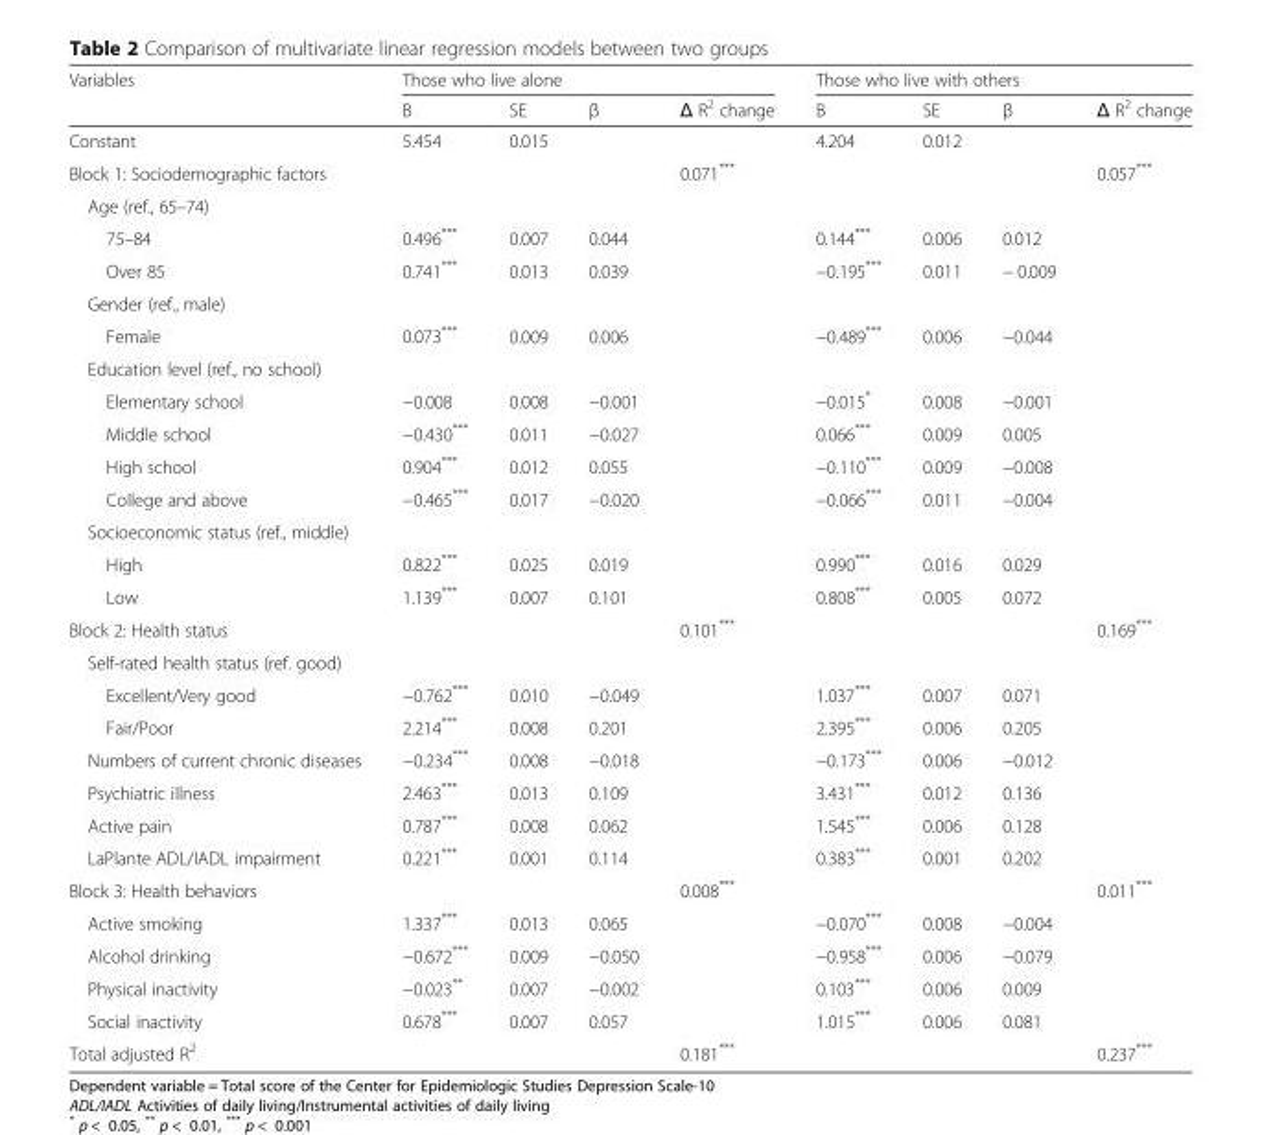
<table><thead><tr><td rowspan="2">Variables</td><td colspan="4">Those who live alone</td><td colspan="4">Those who live with others</td></tr><tr><td>B</td><td>SE</td><td>β</td><td>Δ R<sup>2</sup> change</td><td>B</td><td>SE</td><td>β</td><td>Δ R<sup>2</sup> change</td></tr></thead><tbody><tr><td>Constant</td><td>5.454</td><td>0.015</td><td></td><td></td><td>4.204</td><td>0.012</td><td></td><td></td></tr><tr><td>Block 1: Sociodemographic factors</td><td></td><td></td><td></td><td>0.071***</td><td></td><td></td><td></td><td>0.057***</td></tr><tr><td colspan="9">Age (ref., 65–74)</td></tr><tr><td>75–84</td><td>0.496***</td><td>0.007</td><td>0.044</td><td></td><td>0.144***</td><td>0.006</td><td>0.012</td><td></td></tr><tr><td>Over 85</td><td>0.741***</td><td>0.013</td><td>0.039</td><td></td><td>−0.195***</td><td>0.011</td><td>− 0.009</td><td></td></tr><tr><td colspan="9">Gender (ref., male)</td></tr><tr><td>Female</td><td>0.073***</td><td>0.009</td><td>0.006</td><td></td><td>−0.489***</td><td>0.006</td><td>−0.044</td><td></td></tr><tr><td colspan="9">Education level (ref., no school)</td></tr><tr><td>Elementary school</td><td>−0.008</td><td>0.008</td><td>−0.001</td><td></td><td>−0.015*</td><td>0.008</td><td>−0.001</td><td></td></tr><tr><td>Middle school</td><td>−0.430***</td><td>0.011</td><td>−0.027</td><td></td><td>0.066***</td><td>0.009</td><td>0.005</td><td></td></tr><tr><td>High school</td><td>0.904***</td><td>0.012</td><td>0.055</td><td></td><td>−0.110***</td><td>0.009</td><td>−0.008</td><td></td></tr><tr><td>College and above</td><td>−0.465***</td><td>0.017</td><td>−0.020</td><td></td><td>−0.066***</td><td>0.011</td><td>−0.004</td><td></td></tr><tr><td colspan="9">Socioeconomic status (ref., middle)</td></tr><tr><td>High</td><td>0.822***</td><td>0.025</td><td>0.019</td><td></td><td>0.990***</td><td>0.016</td><td>0.029</td><td></td></tr><tr><td>Low</td><td>1.139***</td><td>0.007</td><td>0.101</td><td></td><td>0.808***</td><td>0.005</td><td>0.072</td><td></td></tr><tr><td>Block 2: Health status</td><td></td><td></td><td></td><td>0.101***</td><td></td><td></td><td></td><td>0.169***</td></tr><tr><td colspan="9">Self-rated health status (ref. good)</td></tr><tr><td>Excellent/Very good</td><td>−0.762***</td><td>0.010</td><td>−0.049</td><td></td><td>1.037***</td><td>0.007</td><td>0.071</td><td></td></tr><tr><td>Fair/Poor</td><td>2.214***</td><td>0.008</td><td>0.201</td><td></td><td>2.395***</td><td>0.006</td><td>0.205</td><td></td></tr><tr><td>Numbers of current chronic diseases</td><td>−0.234***</td><td>0.008</td><td>−0.018</td><td></td><td>−0.173***</td><td>0.006</td><td>−0.012</td><td></td></tr><tr><td>Psychiatric illness</td><td>2.463***</td><td>0.013</td><td>0.109</td><td></td><td>3.431***</td><td>0.012</td><td>0.136</td><td></td></tr><tr><td>Active pain</td><td>0.787***</td><td>0.008</td><td>0.062</td><td></td><td>1.545***</td><td>0.006</td><td>0.128</td><td></td></tr><tr><td>LaPlante ADL/IADL impairment</td><td>0.221***</td><td>0.001</td><td>0.114</td><td></td><td>0.383***</td><td>0.001</td><td>0.202</td><td></td></tr><tr><td>Block 3: Health behaviors</td><td></td><td></td><td></td><td>0.008***</td><td></td><td></td><td></td><td>0.011***</td></tr><tr><td>Active smoking</td><td>1.337***</td><td>0.013</td><td>0.065</td><td></td><td>−0.070***</td><td>0.008</td><td>−0.004</td><td></td></tr><tr><td>Alcohol drinking</td><td>−0.672***</td><td>0.009</td><td>−0.050</td><td></td><td>−0.958***</td><td>0.006</td><td>−0.079</td><td></td></tr><tr><td>Physical inactivity</td><td>−0.023**</td><td>0.007</td><td>−0.002</td><td></td><td>0.103***</td><td>0.006</td><td>0.009</td><td></td></tr><tr><td>Social inactivity</td><td>0.678***</td><td>0.007</td><td>0.057</td><td></td><td>1.015***</td><td>0.006</td><td>0.081</td><td></td></tr><tr><td>Total adjusted R<sup>2</sup></td><td></td><td></td><td></td><td>0.181***</td><td></td><td></td><td></td><td>0.237***</td></tr></tbody></table>